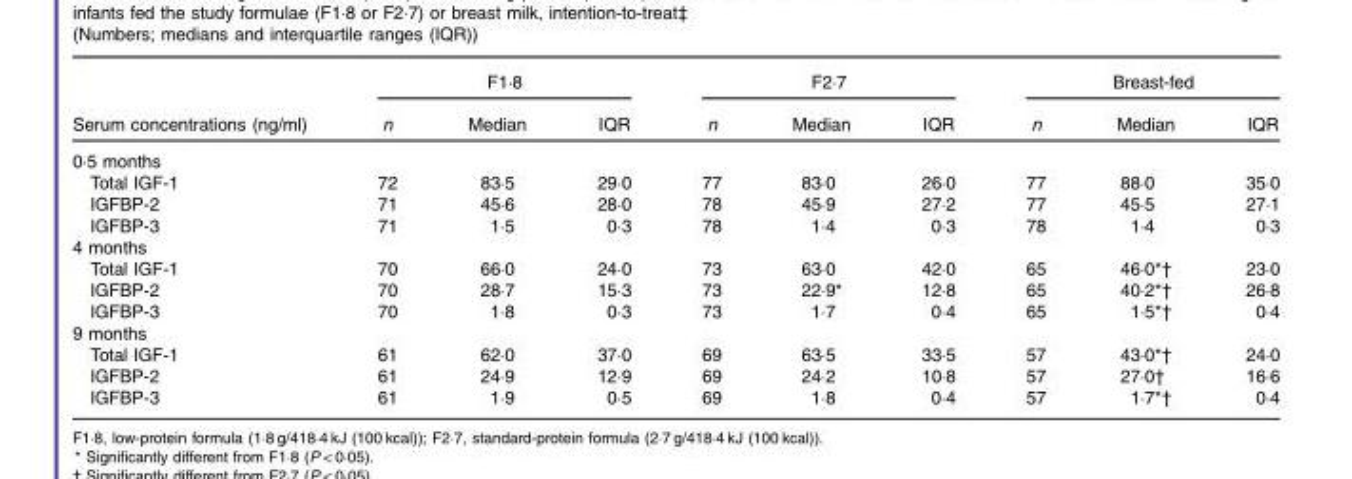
<table><thead><tr><td rowspan="2">Serum concentrations (ng/ml)</td><td colspan="3">F1·8</td><td colspan="3">F2·7</td><td colspan="3">Breast-fed</td></tr><tr><td>n</td><td>Median</td><td>IQR</td><td>n</td><td>Median</td><td>IQR</td><td>n</td><td>Median</td><td>IQR</td></tr></thead><tbody><tr><td colspan="10">0·5 months</td></tr><tr><td>Total IGF-1</td><td>72</td><td>83·5</td><td>29·0</td><td>77</td><td>83·0</td><td>26·0</td><td>77</td><td>88·0</td><td>35·0</td></tr><tr><td>IGFBP-2</td><td>71</td><td>45·6</td><td>28·0</td><td>78</td><td>45·9</td><td>27·2</td><td>77</td><td>45·5</td><td>27·1</td></tr><tr><td>IGFBP-3</td><td>71</td><td>1·5</td><td>0·3</td><td>78</td><td>1·4</td><td>0·3</td><td>78</td><td>1·4</td><td>0·3</td></tr><tr><td colspan="10">4 months</td></tr><tr><td>Total IGF-1</td><td>70</td><td>66·0</td><td>24·0</td><td>73</td><td>63·0</td><td>42·0</td><td>65</td><td>46·0*†</td><td>23·0</td></tr><tr><td>IGFBP-2</td><td>70</td><td>28·7</td><td>15·3</td><td>73</td><td>22·9*</td><td>12·8</td><td>65</td><td>40·2*†</td><td>26·8</td></tr><tr><td>IGFBP-3</td><td>70</td><td>1·8</td><td>0·3</td><td>73</td><td>1·7</td><td>0·4</td><td>65</td><td>1·5*†</td><td>0·4</td></tr><tr><td colspan="10">9 months</td></tr><tr><td>Total IGF-1</td><td>61</td><td>62·0</td><td>37·0</td><td>69</td><td>63·5</td><td>33·5</td><td>57</td><td>43·0*†</td><td>24·0</td></tr><tr><td>IGFBP-2</td><td>61</td><td>24·9</td><td>12·9</td><td>69</td><td>24·2</td><td>10·8</td><td>57</td><td>27·0†</td><td>16·6</td></tr><tr><td>IGFBP-3</td><td>61</td><td>1·9</td><td>0·5</td><td>69</td><td>1·8</td><td>0·4</td><td>57</td><td>1·7*†</td><td>0·4</td></tr></tbody></table>